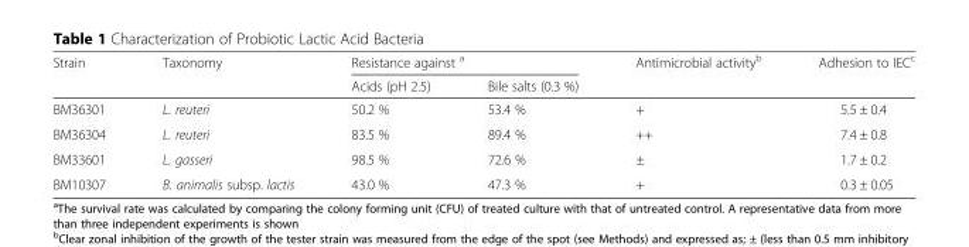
<table><thead><tr><td rowspan="2">Strain</td><td rowspan="2">Taxonomy</td><td colspan="2">Resistance against <sup>a</sup></td><td rowspan="2">Antimicrobial activity<sup>b</sup></td><td rowspan="2">Adhesion to IEC<sup>c</sup></td></tr><tr><td>Acids (pH 2.5)</td><td>Bile salts (0.3 %)</td></tr></thead><tbody><tr><td>BM36301</td><td>L. reuteri</td><td>50.2 %</td><td>53.4 %</td><td>+</td><td>5.5 ± 0.4</td></tr><tr><td>BM36304</td><td>L. reuteri</td><td>83.5 %</td><td>89.4 %</td><td>++</td><td>7.4 ± 0.8</td></tr><tr><td>BM33601</td><td>L. gasseri</td><td>98.5 %</td><td>72.6 %</td><td>±</td><td>1.7 ± 0.2</td></tr><tr><td>BM10307</td><td>B. animalis subsp. lactis</td><td>43.0 %</td><td>47.3 %</td><td>+</td><td>0.3 ± 0.05</td></tr></tbody></table>